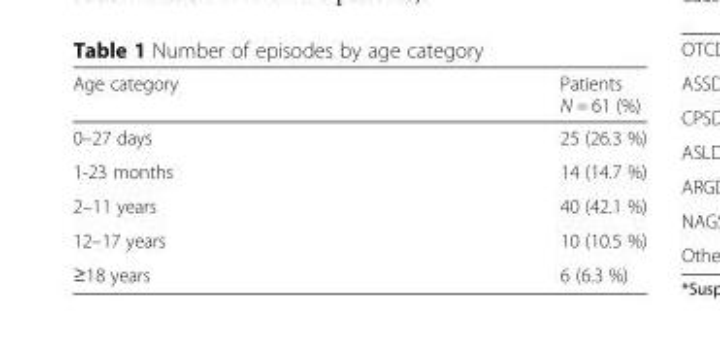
<table><thead><tr><td>Age category</td><td>Patients N = 61 (%)</td></tr></thead><tbody><tr><td>0–27 days</td><td>25 (26.3 %)</td></tr><tr><td>1-23 months</td><td>14 (14.7 %)</td></tr><tr><td>2–11 years</td><td>40 (42.1 %)</td></tr><tr><td>12–17 years</td><td>10 (10.5 %)</td></tr><tr><td>≥18 years</td><td>6 (6.3 %)</td></tr></tbody></table>